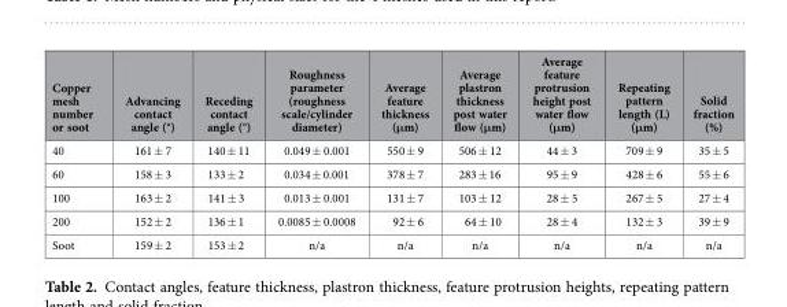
<table><thead><tr><td>Copper mesh number or soot</td><td>Advancing contact angle (°)</td><td>Receding contact angle (°)</td><td>Roughness parameter (roughness scale/cylinder diameter)</td><td>Average feature thickness (μm)</td><td>Average plastron thickness post water flow (μm)</td><td>Average feature protrusion height post water flow (μm)</td><td>Repeating pattern length (L) (μm)</td><td>Solid fraction (%)</td></tr></thead><tbody><tr><td>40</td><td>161 ± 7</td><td>140 ± 11</td><td>0.049 ± 0.001</td><td>550 ± 9</td><td>506 ± 12</td><td>44 ± 3</td><td>709 ± 9</td><td>35 ± 5</td></tr><tr><td>60</td><td>158 ± 3</td><td>133 ± 2</td><td>0.034 ± 0.001</td><td>378 ± 7</td><td>283 ± 16</td><td>95 ± 9</td><td>428 ± 6</td><td>55 ± 6</td></tr><tr><td>100</td><td>163 ± 2</td><td>141 ± 3</td><td>0.013 ± 0.001</td><td>131 ± 7</td><td>103 ± 12</td><td>28 ± 5</td><td>267 ± 5</td><td>27 ± 4</td></tr><tr><td>200</td><td>152 ± 2</td><td>136 ± 1</td><td>0.0085 ± 0.0008</td><td>92 ± 6</td><td>64 ± 10</td><td>28 ± 4</td><td>132 ± 3</td><td>39 ± 9</td></tr><tr><td>Soot</td><td>159 ± 2</td><td>153 ± 2</td><td>n/a</td><td>n/a</td><td>n/a</td><td>n/a</td><td>n/a</td><td>n/a</td></tr></tbody></table>